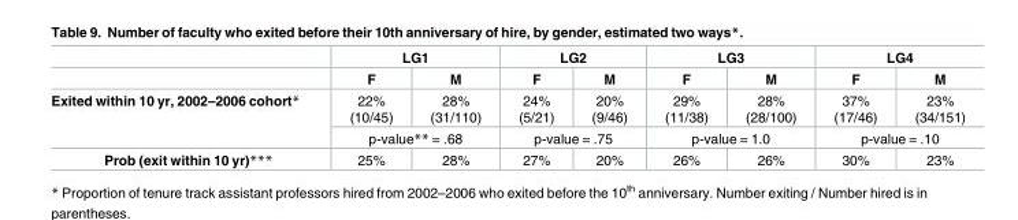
<table><thead><tr><td rowspan="2"></td><td colspan="2">LG1</td><td colspan="2">LG2</td><td colspan="2">LG3</td><td colspan="2">LG4</td></tr><tr><td>F</td><td>M</td><td>F</td><td>M</td><td>F</td><td>M</td><td>F</td><td>M</td></tr></thead><tbody><tr><td rowspan="2">Exited within 10 yr, 2002–2006 cohort*</td><td>22% (10/45)</td><td>28% (31/110)</td><td>24% (5/21)</td><td>20% (9/46)</td><td>29% (11/38)</td><td>28% (28/100)</td><td>37% (17/46)</td><td>23% (34/151)</td></tr><tr><td colspan="2">p-value** = .68</td><td colspan="2">p-value = .75</td><td colspan="2">p-value = 1.0</td><td colspan="2">p-value = .10</td></tr><tr><td>Prob (exit within 10 yr)***</td><td>25%</td><td>28%</td><td>27%</td><td>20%</td><td>26%</td><td>26%</td><td>30%</td><td>23%</td></tr></tbody></table>